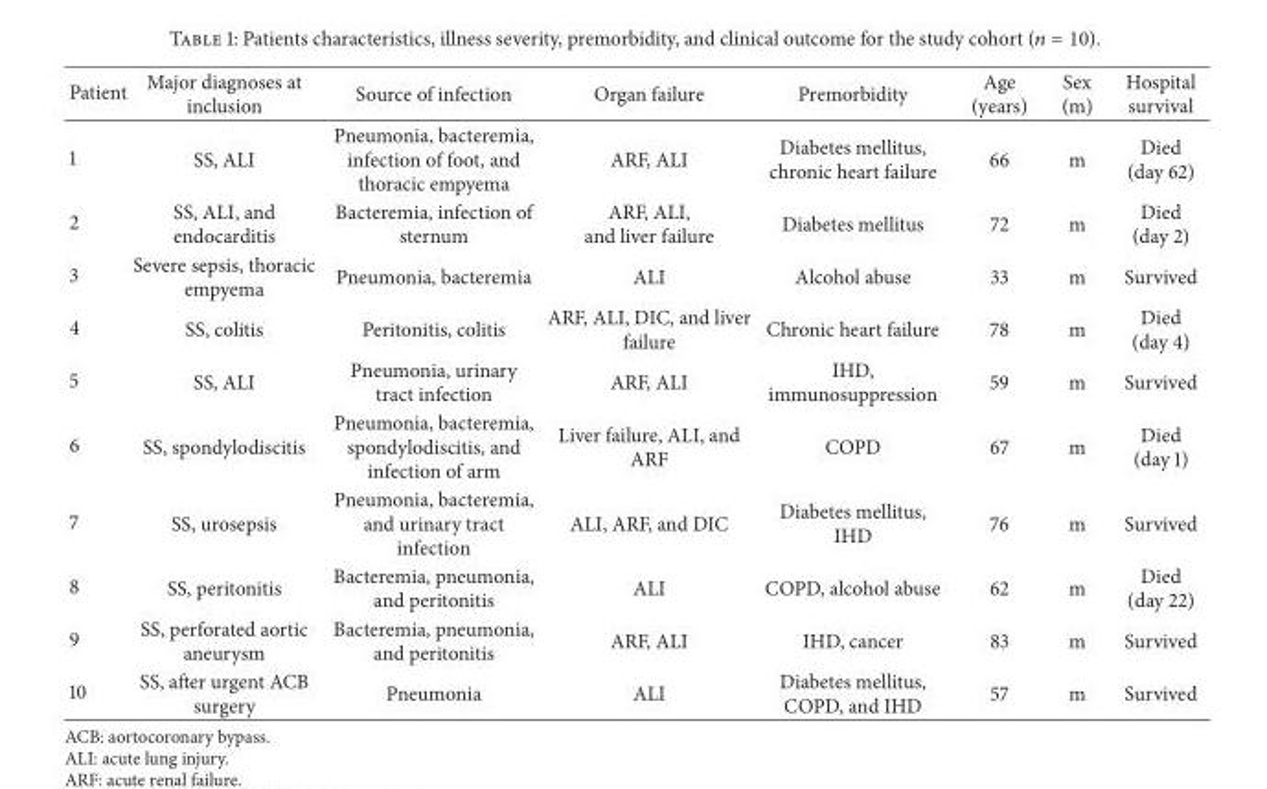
<table><thead><tr><td>Patient</td><td>Major diagnoses at inclusion</td><td>Source of infection</td><td>Organ failure</td><td>Premorbidity</td><td>Age (years)</td><td>Sex (m)</td><td>Hospital survival</td></tr></thead><tbody><tr><td>1</td><td>SS, ALI</td><td>Pneumonia, bacteremia, infection of foot, and thoracic empyema</td><td>ARF, ALI</td><td>Diabetes mellitus, chronic heart failure</td><td>66</td><td>m</td><td>Died (day 62)</td></tr><tr><td>2</td><td>SS, ALI, and endocarditis</td><td>Bacteremia, infection of sternum</td><td>ARF, ALI, and liver failure</td><td>Diabetes mellitus</td><td>72</td><td>m</td><td>Died (day 2)</td></tr><tr><td>3</td><td>Severe sepsis, thoracic empyema</td><td>Pneumonia, bacteremia</td><td>ALI</td><td>Alcohol abuse</td><td>33</td><td>m</td><td>Survived</td></tr><tr><td>4</td><td>SS, colitis</td><td>Peritonitis, colitis</td><td>ARF, ALI, DIC, and liver failure</td><td>Chronic heart failure</td><td>78</td><td>m</td><td>Died (day 4)</td></tr><tr><td>5</td><td>SS, ALI</td><td>Pneumonia, urinary tract infection</td><td>ARF, ALI</td><td>IHD, immunosuppression</td><td>59</td><td>m</td><td>Survived</td></tr><tr><td>6</td><td>SS, spondylodiscitis</td><td>Pneumonia, bacteremia, spondylodiscitis, and infection of arm</td><td>Liver failure, ALI, and ARF</td><td>COPD</td><td>67</td><td>m</td><td>Died (day 1)</td></tr><tr><td>7</td><td>SS, urosepsis</td><td>Pneumonia, bacteremia, and urinary tract infection</td><td>ALI, ARF, and DIC</td><td>Diabetes mellitus, IHD</td><td>76</td><td>m</td><td>Survived</td></tr><tr><td>8</td><td>SS, peritonitis</td><td>Bacteremia, pneumonia, and peritonitis</td><td>ALI</td><td>COPD, alcohol abuse</td><td>62</td><td>m</td><td>Died (day 22)</td></tr><tr><td>9</td><td>SS, perforated aortic aneurysm</td><td>Bacteremia, pneumonia, and peritonitis</td><td>ARF, ALI</td><td>IHD, cancer</td><td>83</td><td>m</td><td>Survived</td></tr><tr><td>10</td><td>SS, after urgent ACB surgery</td><td>Pneumonia</td><td>ALI</td><td>Diabetes mellitus, COPD, and IHD</td><td>57</td><td>m</td><td>Survived</td></tr></tbody></table>